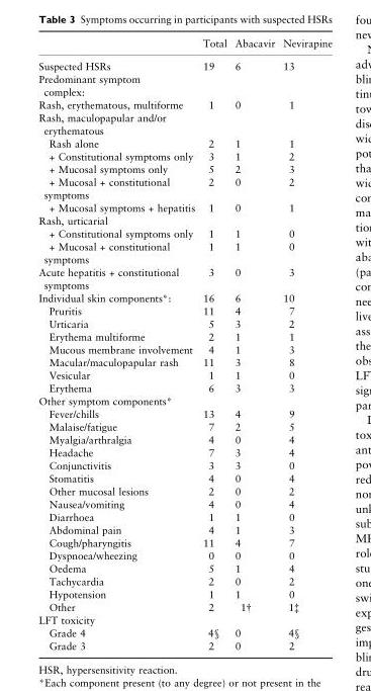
<table><thead><tr><td></td><td>Total</td><td>Abacavir</td><td>Nevirapine</td></tr></thead><tbody><tr><td>Suspected HSRs</td><td>19</td><td>6</td><td>13</td></tr><tr><td colspan="4">Predominant symptom complex:</td></tr><tr><td>Rash, erythematous, multiforme</td><td>1</td><td>0</td><td>1</td></tr><tr><td colspan="4">Rash, maculopapular and/or erythematous</td></tr><tr><td>Rash alone</td><td>2</td><td>1</td><td>1</td></tr><tr><td>+ Constitutional symptoms only</td><td>3</td><td>1</td><td>2</td></tr><tr><td>+ Mucosal symptoms only</td><td>5</td><td>2</td><td>3</td></tr><tr><td>+ Mucosal + constitutional symptoms</td><td>2</td><td>0</td><td>2</td></tr><tr><td>+ Mucosal symptoms + hepatitis</td><td>1</td><td>0</td><td>1</td></tr><tr><td colspan="4">Rash, urticarial</td></tr><tr><td>+ Constitutional symptoms only</td><td>1</td><td>1</td><td>0</td></tr><tr><td>+ Mucosal + constitutional symptoms</td><td>1</td><td>1</td><td>0</td></tr><tr><td>Acute hepatitis + constitutional symptoms</td><td>3</td><td>0</td><td>3</td></tr><tr><td>Individual skin components*:</td><td>16</td><td>6</td><td>10</td></tr><tr><td>Pruritis</td><td>11</td><td>4</td><td>7</td></tr><tr><td>Urticaria</td><td>5</td><td>3</td><td>2</td></tr><tr><td>Erythema multiforme</td><td>2</td><td>1</td><td>1</td></tr><tr><td>Mucous membrane involvement</td><td>4</td><td>1</td><td>3</td></tr><tr><td>Macular/maculopapular rash</td><td>11</td><td>3</td><td>8</td></tr><tr><td>Vesicular</td><td>1</td><td>1</td><td>0</td></tr><tr><td>Erythema</td><td>6</td><td>3</td><td>3</td></tr><tr><td colspan="4">Other symptom components*</td></tr><tr><td>Fever/chills</td><td>13</td><td>4</td><td>9</td></tr><tr><td>Malaise/fatigue</td><td>7</td><td>2</td><td>5</td></tr><tr><td>Myalgia/arthralgia</td><td>4</td><td>0</td><td>4</td></tr><tr><td>Headache</td><td>7</td><td>3</td><td>4</td></tr><tr><td>Conjunctivitis</td><td>3</td><td>3</td><td>0</td></tr><tr><td>Stomatitis</td><td>4</td><td>0</td><td>4</td></tr><tr><td>Other mucosal lesions</td><td>2</td><td>0</td><td>2</td></tr><tr><td>Nausea/vomiting</td><td>4</td><td>0</td><td>4</td></tr><tr><td>Diarrhoea</td><td>1</td><td>1</td><td>0</td></tr><tr><td>Abdominal pain</td><td>4</td><td>1</td><td>3</td></tr><tr><td>Cough/pharyngitis</td><td>11</td><td>4</td><td>7</td></tr><tr><td>Dyspnoea/wheezing</td><td>0</td><td>0</td><td>0</td></tr><tr><td>Oedema</td><td>5</td><td>1</td><td>4</td></tr><tr><td>Tachycardia</td><td>2</td><td>0</td><td>2</td></tr><tr><td>Hypotension</td><td>1</td><td>1</td><td>0</td></tr><tr><td>Other</td><td>2</td><td>1†</td><td>1‡</td></tr><tr><td colspan="4">LFT toxicity</td></tr><tr><td>Grade 4</td><td>4§</td><td>0</td><td>4§</td></tr><tr><td>Grade 3</td><td>2</td><td>0</td><td>2</td></tr></tbody></table>